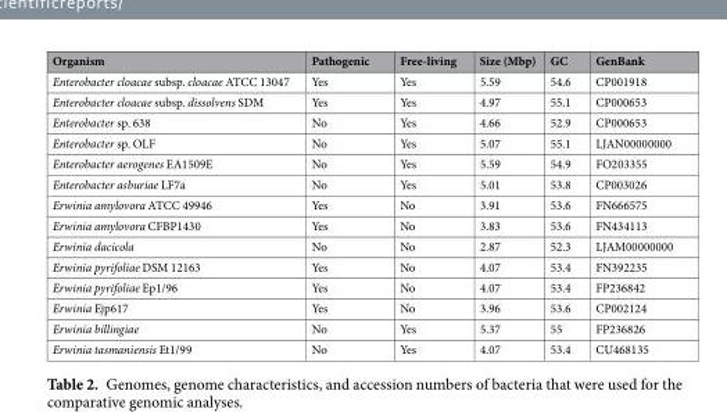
<table><thead><tr><td>Organism</td><td>Pathogenic</td><td>Free-living</td><td>Size (Mbp)</td><td>GC</td><td>GenBank</td></tr></thead><tbody><tr><td>Enterobacter cloacae subsp. cloacae ATCC 13047</td><td>Yes</td><td>Yes</td><td>5.59</td><td>54.6</td><td>CP001918</td></tr><tr><td>Enterobacter cloacae subsp. dissolvens SDM</td><td>Yes</td><td>Yes</td><td>4.97</td><td>55.1</td><td>CP000653</td></tr><tr><td>Enterobacter sp. 638</td><td>No</td><td>Yes</td><td>4.66</td><td>52.9</td><td>CP000653</td></tr><tr><td>Enterobacter sp. OLF</td><td>No</td><td>Yes</td><td>5.07</td><td>55.1</td><td>LJAN00000000</td></tr><tr><td>Enterobacter aerogenes EA1509E</td><td>No</td><td>Yes</td><td>5.59</td><td>54.9</td><td>FO203355</td></tr><tr><td>Enterobacter asburiae LF7a</td><td>No</td><td>Yes</td><td>5.01</td><td>53.8</td><td>CP003026</td></tr><tr><td>Erwinia amylovora ATCC 49946</td><td>Yes</td><td>No</td><td>3.91</td><td>53.6</td><td>FN666575</td></tr><tr><td>Erwinia amylovora CFBP1430</td><td>Yes</td><td>No</td><td>3.83</td><td>53.6</td><td>FN434113</td></tr><tr><td>Erwinia dacicola</td><td>No</td><td>No</td><td>2.87</td><td>52.3</td><td>LJAM00000000</td></tr><tr><td>Erwinia pyrifoliae DSM 12163</td><td>Yes</td><td>No</td><td>4.07</td><td>53.4</td><td>FN392235</td></tr><tr><td>Erwinia pyrifoliae Ep1/96</td><td>Yes</td><td>No</td><td>4.07</td><td>53.4</td><td>FP236842</td></tr><tr><td>Erwinia Ejp617</td><td>Yes</td><td>No</td><td>3.96</td><td>53.6</td><td>CP002124</td></tr><tr><td>Erwinia billingiae</td><td>No</td><td>Yes</td><td>5.37</td><td>55</td><td>FP236826</td></tr><tr><td>Erwinia tasmaniensis Et1/99</td><td>No</td><td>Yes</td><td>4.07</td><td>53.4</td><td>CU468135</td></tr></tbody></table>